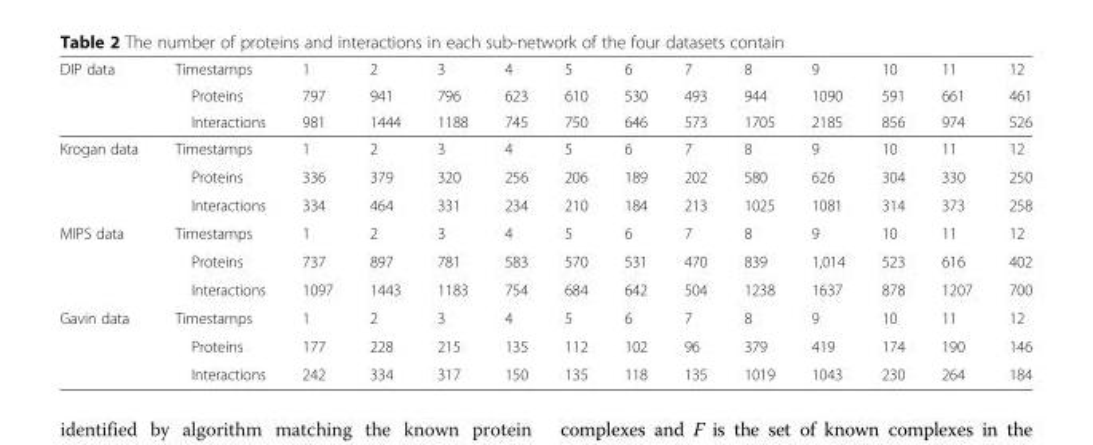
<table><thead><tr><td rowspan="3">DIP data</td><td rowspan="3">Timestamps Proteins Interactions</td><td rowspan="3">1 797 981</td><td rowspan="3">2 941 1444</td><td rowspan="3">3 796 1188</td><td rowspan="3">4 623 745</td><td rowspan="3">5 610 750</td><td rowspan="3">6 530 646</td><td rowspan="3">7 493 573</td><td rowspan="3">8 944 1705</td><td rowspan="3">9 1090 2185</td><td rowspan="3">10 591 856</td><td rowspan="3">11 661 974</td><td rowspan="3">12 461 526</td></tr><tr></tr><tr></tr></thead><tbody><tr><td rowspan="3">Krogan data</td><td>Timestamps</td><td>1</td><td>2</td><td>3</td><td>4</td><td>5</td><td>6</td><td>7</td><td>8</td><td>9</td><td>10</td><td>11</td><td>12</td></tr><tr><td>Proteins</td><td>336</td><td>379</td><td>320</td><td>256</td><td>206</td><td>189</td><td>202</td><td>580</td><td>626</td><td>304</td><td>330</td><td>250</td></tr><tr><td>Interactions</td><td>334</td><td>464</td><td>331</td><td>234</td><td>210</td><td>184</td><td>213</td><td>1025</td><td>1081</td><td>314</td><td>373</td><td>258</td></tr><tr><td rowspan="3">MIPS data</td><td>Timestamps</td><td>1</td><td>2</td><td>3</td><td>4</td><td>5</td><td>6</td><td>7</td><td>8</td><td>9</td><td>10</td><td>11</td><td>12</td></tr><tr><td>Proteins</td><td>737</td><td>897</td><td>781</td><td>583</td><td>570</td><td>531</td><td>470</td><td>839</td><td>1,014</td><td>523</td><td>616</td><td>402</td></tr><tr><td>Interactions</td><td>1097</td><td>1443</td><td>1183</td><td>754</td><td>684</td><td>642</td><td>504</td><td>1238</td><td>1637</td><td>878</td><td>1207</td><td>700</td></tr><tr><td rowspan="3">Gavin data</td><td>Timestamps</td><td>1</td><td>2</td><td>3</td><td>4</td><td>5</td><td>6</td><td>7</td><td>8</td><td>9</td><td>10</td><td>11</td><td>12</td></tr><tr><td>Proteins</td><td>177</td><td>228</td><td>215</td><td>135</td><td>112</td><td>102</td><td>96</td><td>379</td><td>419</td><td>174</td><td>190</td><td>146</td></tr><tr><td>Interactions</td><td>242</td><td>334</td><td>317</td><td>150</td><td>135</td><td>118</td><td>135</td><td>1019</td><td>1043</td><td>230</td><td>264</td><td>184</td></tr></tbody></table>